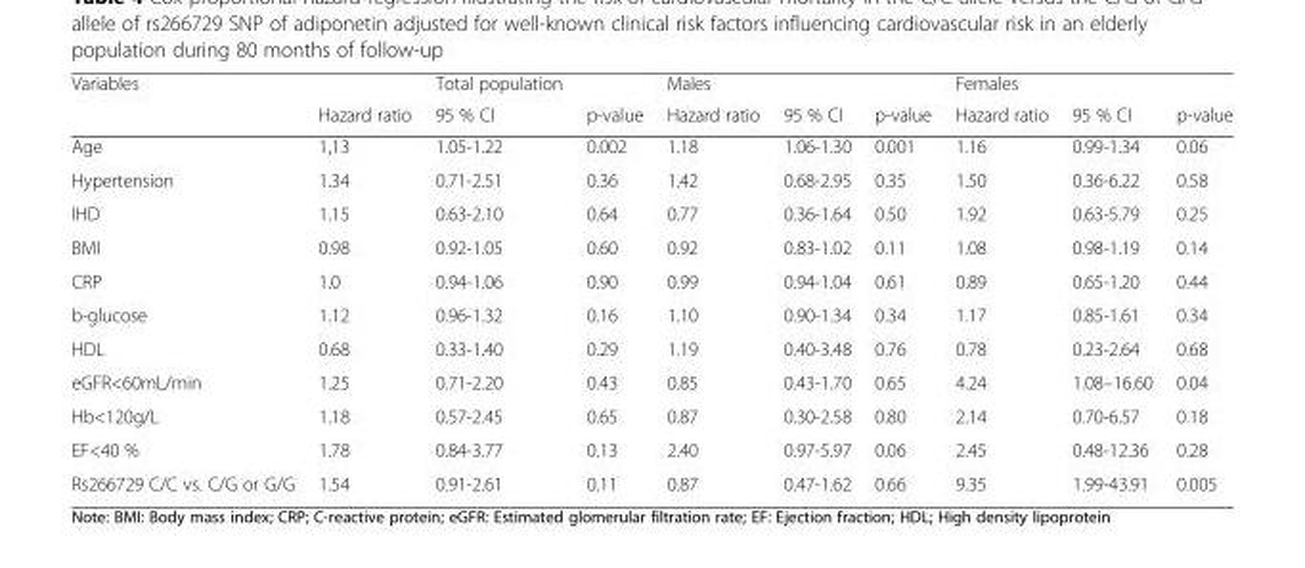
<table><thead><tr><td rowspan="2">Variables</td><td rowspan="2">Hazard ratio</td><td rowspan="2">Total population 95 % CI</td><td rowspan="2">p-value</td><td rowspan="2">Males Hazard ratio</td><td rowspan="2">95 % CI</td><td rowspan="2">p-value</td><td rowspan="2">Females Hazard ratio</td><td rowspan="2">95 % CI</td><td rowspan="2">p-value</td></tr><tr></tr></thead><tbody><tr><td>Age</td><td>1,13</td><td>1.05-1.22</td><td>0.002</td><td>1.18</td><td>1.06-1.30</td><td>0.001</td><td>1.16</td><td>0.99-1.34</td><td>0.06</td></tr><tr><td>Hypertension</td><td>1.34</td><td>0.71-2.51</td><td>0.36</td><td>1.42</td><td>0.68-2.95</td><td>0.35</td><td>1.50</td><td>0.36-6.22</td><td>0.58</td></tr><tr><td>IHD</td><td>1.15</td><td>0.63-2.10</td><td>0.64</td><td>0.77</td><td>0.36-1.64</td><td>0.50</td><td>1.92</td><td>0.63-5.79</td><td>0.25</td></tr><tr><td>BMI</td><td>0.98</td><td>0.92-1.05</td><td>0.60</td><td>0.92</td><td>0.83-1.02</td><td>0.11</td><td>1.08</td><td>0.98-1.19</td><td>0.14</td></tr><tr><td>CRP</td><td>1.0</td><td>0.94-1.06</td><td>0.90</td><td>0.99</td><td>0.94-1.04</td><td>0.61</td><td>0.89</td><td>0.65-1.20</td><td>0.44</td></tr><tr><td>b-glucose</td><td>1.12</td><td>0.96-1.32</td><td>0.16</td><td>1.10</td><td>0.90-1.34</td><td>0.34</td><td>1.17</td><td>0.85-1.61</td><td>0.34</td></tr><tr><td>HDL</td><td>0.68</td><td>0.33-1.40</td><td>0.29</td><td>1.19</td><td>0.40-3.48</td><td>0.76</td><td>0.78</td><td>0.23-2.64</td><td>0.68</td></tr><tr><td>eGFR&lt;60mL/min</td><td>1.25</td><td>0.71-2.20</td><td>0.43</td><td>0.85</td><td>0.43-1.70</td><td>0.65</td><td>4.24</td><td>1.08–16.60</td><td>0.04</td></tr><tr><td>Hb&lt;120g/L</td><td>1.18</td><td>0.57-2.45</td><td>0.65</td><td>0.87</td><td>0.30-2.58</td><td>0.80</td><td>2.14</td><td>0.70-6.57</td><td>0.18</td></tr><tr><td>EF&lt;40 %</td><td>1.78</td><td>0.84-3.77</td><td>0.13</td><td>2.40</td><td>0.97-5.97</td><td>0.06</td><td>2.45</td><td>0.48-12.36</td><td>0.28</td></tr><tr><td>Rs266729 C/C vs. C/G or G/G</td><td>1.54</td><td>0.91-2.61</td><td>0.11</td><td>0.87</td><td>0.47-1.62</td><td>0.66</td><td>9.35</td><td>1.99-43.91</td><td>0.005</td></tr></tbody></table>